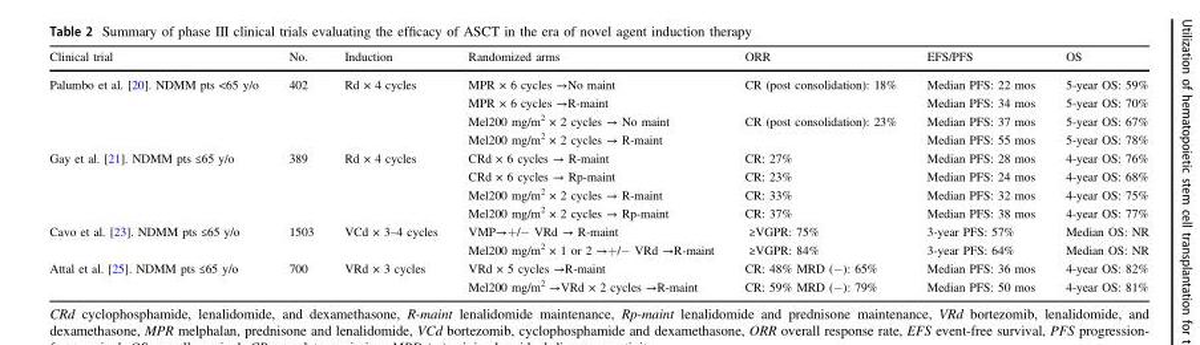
<table><thead><tr><td>Clinical trial</td><td>No.</td><td>Induction</td><td>Randomized arms</td><td>ORR</td><td>EFS/PFS</td><td>OS</td></tr></thead><tbody><tr><td rowspan="4">Palumbo et al. [20]. NDMM pts &lt;65 y/o</td><td rowspan="4">402</td><td rowspan="4">Rd × 4 cycles</td><td>MPR × 6 cycles →No maint</td><td>CR (post consolidation): 18%</td><td>Median PFS: 22 mos</td><td>5-year OS: 59%</td></tr><tr><td>MPR × 6 cycles →R-maint</td><td></td><td>Median PFS: 34 mos</td><td>5-year OS: 70%</td></tr><tr><td>Mel200 mg/m<sup>2</sup> × 2 cycles → No maint</td><td>CR (post consolidation): 23%</td><td>Median PFS: 37 mos</td><td>5-year OS: 67%</td></tr><tr><td>Mel200 mg/m<sup>2</sup> × 2 cycles → R-maint</td><td></td><td>Median PFS: 55 mos</td><td>5-year OS: 78%</td></tr><tr><td rowspan="4">Gay et al. [21]. NDMM pts ≤65 y/o</td><td rowspan="4">389</td><td rowspan="4">Rd × 4 cycles</td><td>CRd × 6 cycles → R-maint</td><td>CR: 27%</td><td>Median PFS: 28 mos</td><td>4-year OS: 76%</td></tr><tr><td>CRd × 6 cycles → Rp-maint</td><td>CR: 23%</td><td>Median PFS: 24 mos</td><td>4-year OS: 68%</td></tr><tr><td>Mel200 mg/m<sup>2</sup> × 2 cycles → R-maint</td><td>CR: 33%</td><td>Median PFS: 32 mos</td><td>4-year OS: 75%</td></tr><tr><td>Mel200 mg/m<sup>2</sup> × 2 cycles → Rp-maint</td><td>CR: 37%</td><td>Median PFS: 38 mos</td><td>4-year OS: 77%</td></tr><tr><td rowspan="2">Cavo et al. [23]. NDMM pts ≤65 y/o</td><td rowspan="2">1503</td><td rowspan="2">VCd × 3–4 cycles</td><td>VMP→+/− VRd → R-maint</td><td>≥VGPR: 75%</td><td>3-year PFS: 57%</td><td>Median OS: NR</td></tr><tr><td>Mel200 mg/m<sup>2</sup> × 1 or 2 →+/− VRd →R-maint</td><td>≥VGPR: 84%</td><td>3-year PFS: 64%</td><td>Median OS: NR</td></tr><tr><td rowspan="2">Attal et al. [25]. NDMM pts ≤65 y/o</td><td rowspan="2">700</td><td rowspan="2">VRd × 3 cycles</td><td>VRd × 5 cycles →R-maint</td><td>CR: 48% MRD (−): 65%</td><td>Median PFS: 36 mos</td><td>4-year OS: 82%</td></tr><tr><td>Mel200 mg/m<sup>2</sup> →VRd × 2 cycles →R-maint</td><td>CR: 59% MRD (−): 79%</td><td>Median PFS: 50 mos</td><td>4-year OS: 81%</td></tr></tbody></table>